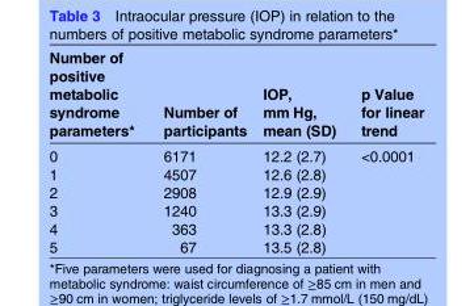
<table><thead><tr><td>Number of positive metabolic syndrome parameters*</td><td>Number of participants</td><td>IOP, mm Hg, mean (SD)</td><td>p Value for linear trend</td></tr></thead><tbody><tr><td>0</td><td>6171</td><td>12.2 (2.7)</td><td>&lt;0.0001</td></tr><tr><td>1</td><td>4507</td><td>12.6 (2.8)</td><td></td></tr><tr><td>2</td><td>2908</td><td>12.9 (2.9)</td><td></td></tr><tr><td>3</td><td>1240</td><td>13.3 (2.9)</td><td></td></tr><tr><td>4</td><td>363</td><td>13.3 (2.8)</td><td></td></tr><tr><td>5</td><td>67</td><td>13.5 (2.8)</td><td></td></tr></tbody></table>